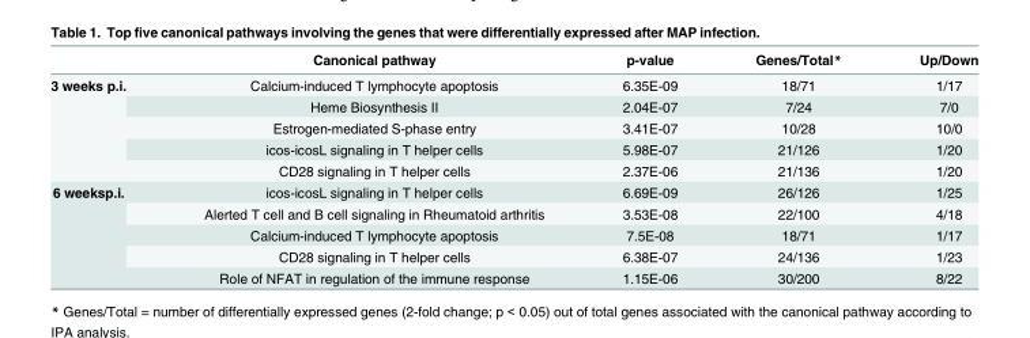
<table><thead><tr><td></td><td>Canonical pathway</td><td>p-value</td><td>Genes/Total*</td><td>Up/Down</td></tr></thead><tbody><tr><td rowspan="5">3 weeks p.i.</td><td>Calcium-induced T lymphocyte apoptosis</td><td>6.35E-09</td><td>18/71</td><td>1/17</td></tr><tr><td>Heme Biosynthesis II</td><td>2.04E-07</td><td>7/24</td><td>7/0</td></tr><tr><td>Estrogen-mediated S-phase entry</td><td>3.41E-07</td><td>10/28</td><td>10/0</td></tr><tr><td>icos-icosL signaling in T helper cells</td><td>5.98E-07</td><td>21/126</td><td>1/20</td></tr><tr><td>CD28 signaling in T helper cells</td><td>2.37E-06</td><td>21/136</td><td>1/20</td></tr><tr><td rowspan="5">6 weeksp.i.</td><td>icos-icosL signaling in T helper cells</td><td>6.69E-09</td><td>26/126</td><td>1/25</td></tr><tr><td>Alerted T cell and B cell signaling in Rheumatoid arthritis</td><td>3.53E-08</td><td>22/100</td><td>4/18</td></tr><tr><td>Calcium-induced T lymphocyte apoptosis</td><td>7.5E-08</td><td>18/71</td><td>1/17</td></tr><tr><td>CD28 signaling in T helper cells</td><td>6.38E-07</td><td>24/136</td><td>1/23</td></tr><tr><td>Role of NFAT in regulation of the immune response</td><td>1.15E-06</td><td>30/200</td><td>8/22</td></tr></tbody></table>